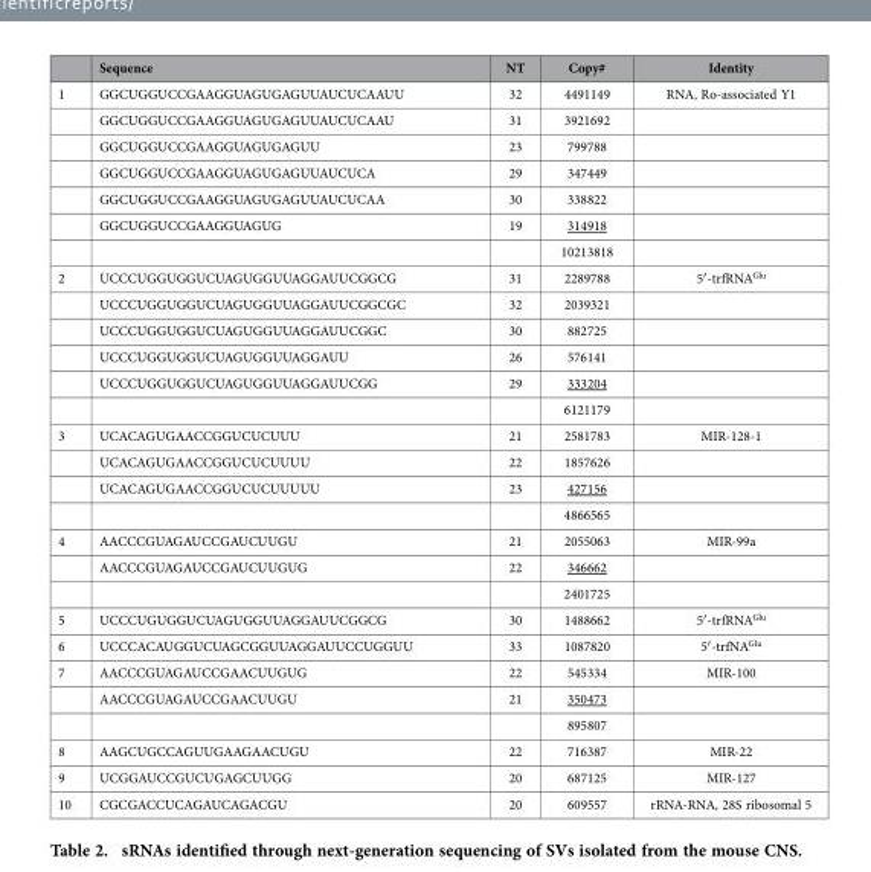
<table><thead><tr><td></td><td>Sequence</td><td>NT</td><td>Copy#</td><td>Identity</td></tr></thead><tbody><tr><td rowspan="7">1</td><td>GGCUGGUCCGAAGGUAGUGAGUUAUCUCAAUU</td><td>32</td><td>4491149</td><td>RNA, Ro-associated Y1</td></tr><tr><td>GGCUGGUCCGAAGGUAGUGAGUUAUCUCAAU</td><td>31</td><td>3921692</td><td></td></tr><tr><td>GGCUGGUCCGAAGGUAGUGAGUU</td><td>23</td><td>799788</td><td></td></tr><tr><td>GGCUGGUCCGAAGGUAGUGAGUUAUCUCA</td><td>29</td><td>347449</td><td></td></tr><tr><td>GGCUGGUCCGAAGGUAGUGAGUUAUCUCAA</td><td>30</td><td>338822</td><td></td></tr><tr><td>GGCUGGUCCGAAGGUAGUG</td><td>19</td><td>314918</td><td></td></tr><tr><td></td><td></td><td>10213818</td><td></td></tr><tr><td rowspan="6">2</td><td>UCCCUGGUGGUCUAGUGGUUAGGAUUCGGCG</td><td>31</td><td>2289788</td><td>5′ -trfRNA<sup>Glu</sup></td></tr><tr><td>UCCCUGGUGGUCUAGUGGUUAGGAUUCGGCGC</td><td>32</td><td>2039321</td><td></td></tr><tr><td>UCCCUGGUGGUCUAGUGGUUAGGAUUCGGC</td><td>30</td><td>882725</td><td></td></tr><tr><td>UCCCUGGUGGUCUAGUGGUUAGGAUU</td><td>26</td><td>576141</td><td></td></tr><tr><td>UCCCUGGUGGUCUAGUGGUUAGGAUUCGG</td><td>29</td><td>333204</td><td></td></tr><tr><td></td><td></td><td>6121179</td><td></td></tr><tr><td rowspan="4">3</td><td>UCACAGUGAACCGGUCUCUUU</td><td>21</td><td>2581783</td><td>MIR-128-1</td></tr><tr><td>UCACAGUGAACCGGUCUCUUUU</td><td>22</td><td>1857626</td><td></td></tr><tr><td>UCACAGUGAACCGGUCUCUUUUU</td><td>23</td><td>427156</td><td></td></tr><tr><td></td><td></td><td>4866565</td><td></td></tr><tr><td rowspan="3">4</td><td>AACCCGUAGAUCCGAUCUUGU</td><td>21</td><td>2055063</td><td>MIR-99a</td></tr><tr><td>AACCCGUAGAUCCGAUCUUGUG</td><td>22</td><td>346662</td><td></td></tr><tr><td></td><td></td><td>2401725</td><td></td></tr><tr><td>5</td><td>UCCCUGUGGUCUAGUGGUUAGGAUUCGGCG</td><td>30</td><td>1488662</td><td>5′ -trfRNA<sup>Glu</sup></td></tr><tr><td>6</td><td>UCCCACAUGGUCUAGCGGUUAGGAUUCCUGGUU</td><td>33</td><td>1087820</td><td>5′ -trfNA<sup>Glu</sup></td></tr><tr><td rowspan="3">7</td><td>AACCCGUAGAUCCGAACUUGUG</td><td>22</td><td>545334</td><td>MIR-100</td></tr><tr><td>AACCCGUAGAUCCGAACUUGU</td><td>21</td><td>350473</td><td></td></tr><tr><td></td><td></td><td>895807</td><td></td></tr><tr><td>8</td><td>AAGCUGCCAGUUGAAGAACUGU</td><td>22</td><td>716387</td><td>MIR-22</td></tr><tr><td>9</td><td>UCGGAUCCGUCUGAGCUUGG</td><td>20</td><td>687125</td><td>MIR-127</td></tr><tr><td>10</td><td>CGCGACCUCAGAUCAGACGU</td><td>20</td><td>609557</td><td>rRNA-RNA, 28S ribosomal 5</td></tr></tbody></table>